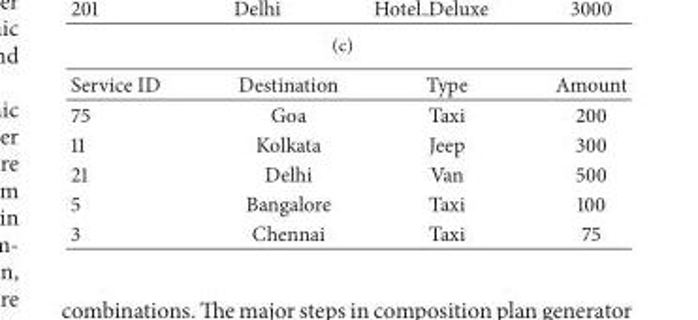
<table><thead><tr><td>Service ID</td><td>Destination</td><td>Type</td><td>Amount</td></tr></thead><tbody><tr><td>75</td><td>Goa</td><td>Taxi</td><td>200</td></tr><tr><td>11</td><td>Kolkata</td><td>Jeep</td><td>300</td></tr><tr><td>21</td><td>Delhi</td><td>Van</td><td>500</td></tr><tr><td>5</td><td>Bangalore</td><td>Taxi</td><td>100</td></tr><tr><td>3</td><td>Chennai</td><td>Taxi</td><td>75</td></tr></tbody></table>